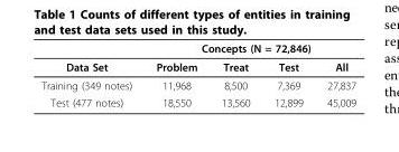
<table><thead><tr><td rowspan="2">Data Set</td><td colspan="4">Concepts (N = 72,846)</td></tr><tr><td>Problem</td><td>Treat</td><td>Test</td><td>All</td></tr></thead><tbody><tr><td>Training (349 notes)</td><td>11,968</td><td>8,500</td><td>7,369</td><td>27,837</td></tr><tr><td>Test (477 notes)</td><td>18,550</td><td>13,560</td><td>12,899</td><td>45,009</td></tr></tbody></table>